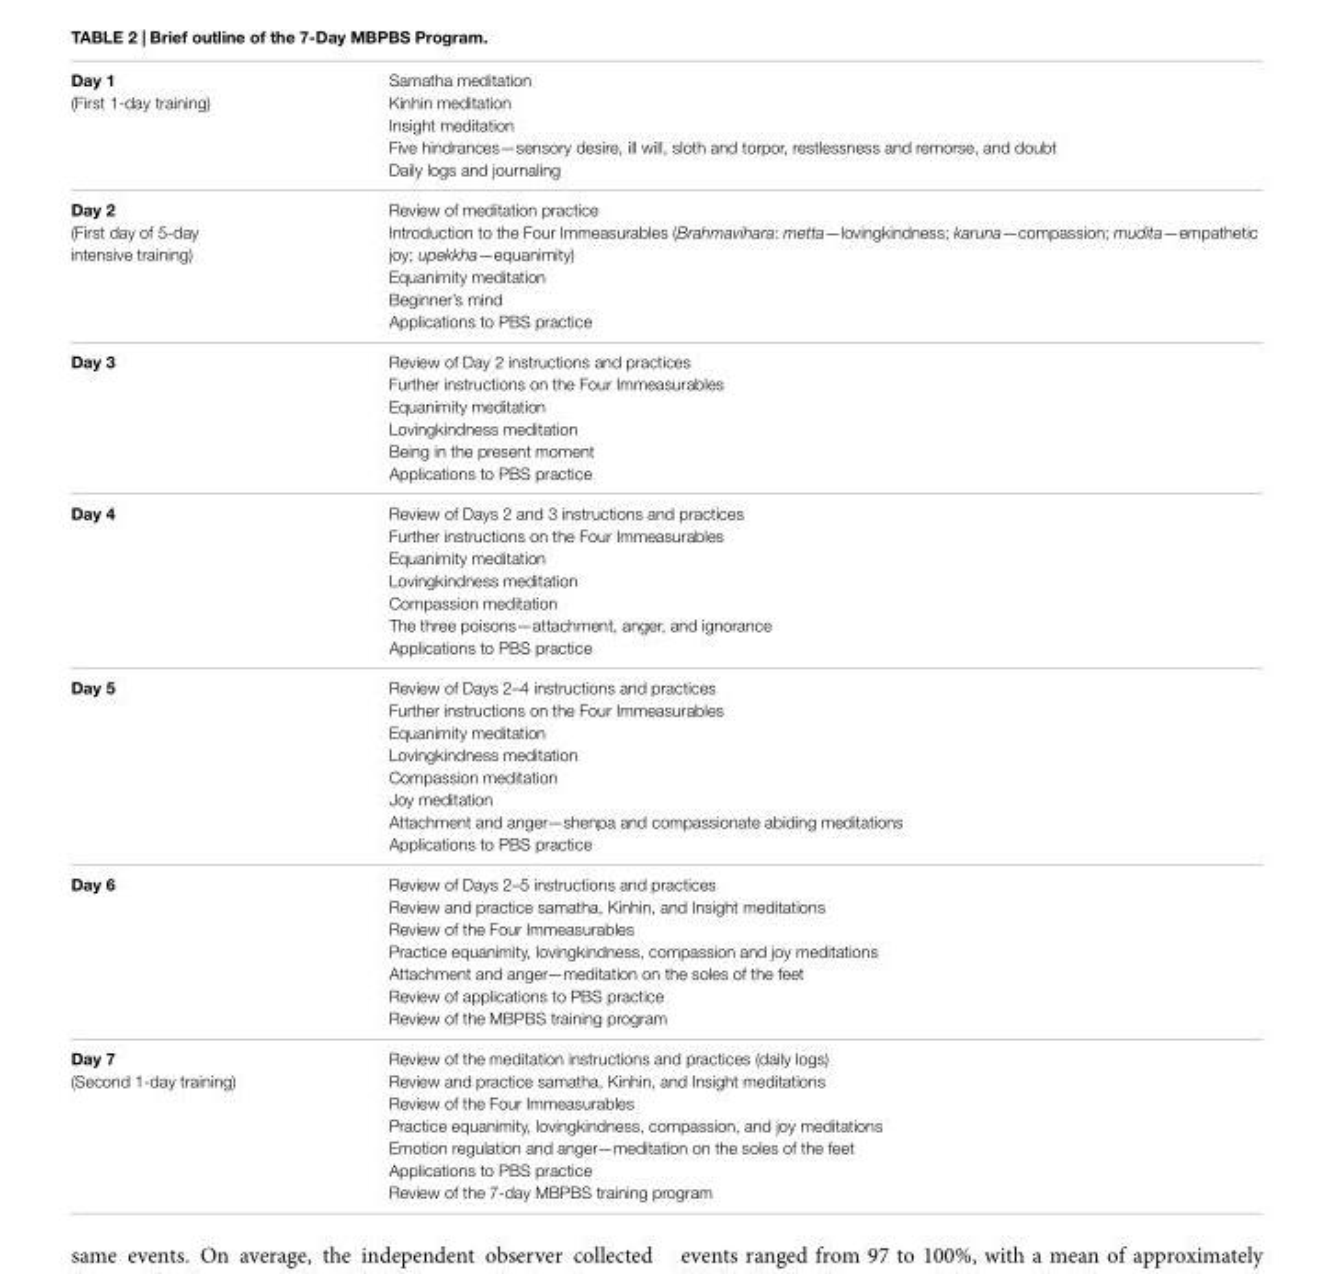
<table><tbody><tr><td>Day 1 (First 1-day training)</td><td>Samatha meditation Kinhin meditation Insight meditation Five hindrances—sensory desire, ill will, sloth and torpor, restlessness and remorse, and doubt Daily logs and journaling</td></tr><tr><td>Day 2 (First day of 5-day intensive training)</td><td>Review of meditation practice Introduction to the Four Immeasurables (Brahmavihara: metta—lovingkindness; karuna—compassion; mudita—empathetic joy; upekkha—equanimity) Equanimity meditation Beginner’s mind Applications to PBS practice</td></tr><tr><td>Day 3</td><td>Review of Day 2 instructions and practices Further instructions on the Four Immeasurables Equanimity meditation Lovingkindness meditation Being in the present moment Applications to PBS practice</td></tr><tr><td>Day 4</td><td>Review of Days 2 and 3 instructions and practices Further instructions on the Four Immeasurables Equanimity meditation Lovingkindness meditation Compassion meditation The three poisons—attachment, anger, and ignorance Applications to PBS practice</td></tr><tr><td>Day 5</td><td>Review of Days 2–4 instructions and practices Further instructions on the Four Immeasurables Equanimity meditation Lovingkindness meditation Compassion meditation Joy meditation Attachment and anger—shenpa and compassionate abiding meditations Applications to PBS practice</td></tr><tr><td>Day 6</td><td>Review of Days 2–5 instructions and practices Review and practice samatha, Kinhin, and Insight meditations Review of the Four Immeasurables Practice equanimity, lovingkindness, compassion and joy meditations Attachment and anger—meditation on the soles of the feet Review of applications to PBS practice Review of the MBPBS training program</td></tr><tr><td>Day 7 (Second 1-day training)</td><td>Review of the meditation instructions and practices (daily logs) Review and practice samatha, Kinhin, and Insight meditations Review of the Four Immeasurables Practice equanimity, lovingkindness, compassion, and joy meditations Emotion regulation and anger—meditation on the soles of the feet Applications to PBS practice Review of the 7-day MBPBS training program</td></tr></tbody></table>